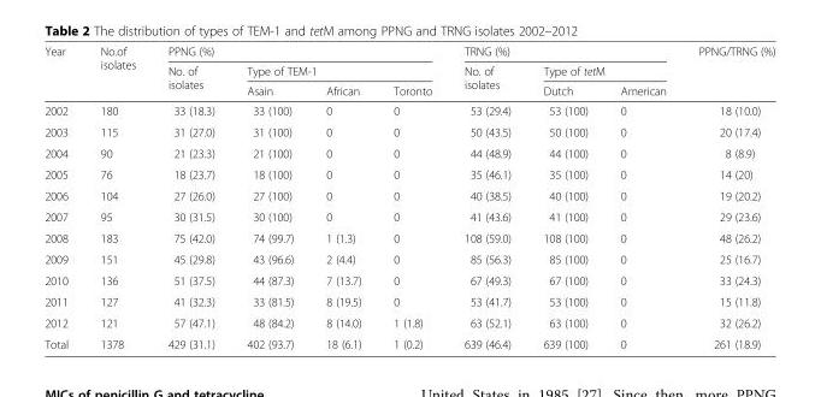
<table><thead><tr><td rowspan="3">Year</td><td rowspan="3">No.of isolates</td><td colspan="4">PPNG (%)</td><td colspan="3">TRNG (%)</td><td rowspan="3">PPNG/TRNG (%)</td></tr><tr><td rowspan="2">No. of isolates</td><td colspan="3">Type of TEM-1</td><td rowspan="2">No. of isolates</td><td colspan="2">Type of tetM</td></tr><tr><td>Asain</td><td>African</td><td>Toronto</td><td>Dutch</td><td>American</td></tr></thead><tbody><tr><td>2002</td><td>180</td><td>33 (18.3)</td><td>33 (100)</td><td>0</td><td>0</td><td>53 (29.4)</td><td>53 (100)</td><td>0</td><td>18 (10.0)</td></tr><tr><td>2003</td><td>115</td><td>31 (27.0)</td><td>31 (100)</td><td>0</td><td>0</td><td>50 (43.5)</td><td>50 (100)</td><td>0</td><td>20 (17.4)</td></tr><tr><td>2004</td><td>90</td><td>21 (23.3)</td><td>21 (100)</td><td>0</td><td>0</td><td>44 (48.9)</td><td>44 (100)</td><td>0</td><td>8 (8.9)</td></tr><tr><td>2005</td><td>76</td><td>18 (23.7)</td><td>18 (100)</td><td>0</td><td>0</td><td>35 (46.1)</td><td>35 (100)</td><td>0</td><td>14 (20)</td></tr><tr><td>2006</td><td>104</td><td>27 (26.0)</td><td>27 (100)</td><td>0</td><td>0</td><td>40 (38.5)</td><td>40 (100)</td><td>0</td><td>19 (20.2)</td></tr><tr><td>2007</td><td>95</td><td>30 (31.5)</td><td>30 (100)</td><td>0</td><td>0</td><td>41 (43.6)</td><td>41 (100)</td><td>0</td><td>29 (23.6)</td></tr><tr><td>2008</td><td>183</td><td>75 (42.0)</td><td>74 (99.7)</td><td>1 (1.3)</td><td>0</td><td>108 (59.0)</td><td>108 (100)</td><td>0</td><td>48 (26.2)</td></tr><tr><td>2009</td><td>151</td><td>45 (29.8)</td><td>43 (96.6)</td><td>2 (4.4)</td><td>0</td><td>85 (56.3)</td><td>85 (100)</td><td>0</td><td>25 (16.7)</td></tr><tr><td>2010</td><td>136</td><td>51 (37.5)</td><td>44 (87.3)</td><td>7 (13.7)</td><td>0</td><td>67 (49.3)</td><td>67 (100)</td><td>0</td><td>33 (24.3)</td></tr><tr><td>2011</td><td>127</td><td>41 (32.3)</td><td>33 (81.5)</td><td>8 (19.5)</td><td>0</td><td>53 (41.7)</td><td>53 (100)</td><td>0</td><td>15 (11.8)</td></tr><tr><td>2012</td><td>121</td><td>57 (47.1)</td><td>48 (84.2)</td><td>8 (14.0)</td><td>1 (1.8)</td><td>63 (52.1)</td><td>63 (100)</td><td>0</td><td>32 (26.2)</td></tr><tr><td>Total</td><td>1378</td><td>429 (31.1)</td><td>402 (93.7)</td><td>18 (6.1)</td><td>1 (0.2)</td><td>639 (46.4)</td><td>639 (100)</td><td>0</td><td>261 (18.9)</td></tr></tbody></table>